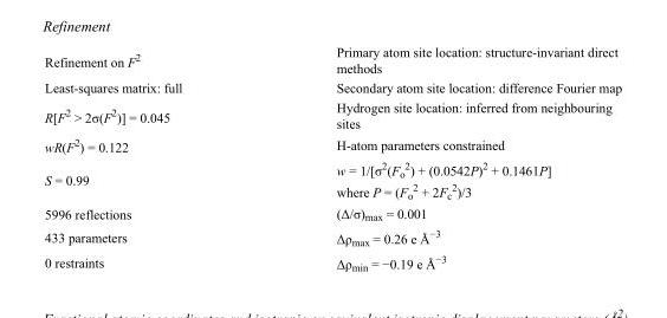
<table><tbody><tr><td>Refinement on F<sup>2</sup></td><td>Primary atom site location: structure-invariant direct methods</td></tr><tr><td>Least-squares matrix: full</td><td>Secondary atom site location: difference Fourier map</td></tr><tr><td>R[F<sup>2</sup> &gt; 2σ(F<sup>2</sup>)] = 0.045</td><td>Hydrogen site location: inferred from neighbouring sites</td></tr><tr><td>wR(F<sup>2</sup>) = 0.122</td><td>H-atom parameters constrained</td></tr><tr><td>S = 0.99</td><td>w = 1/[σ<sup>2</sup>(F<sub>o</sub> <sup>2</sup>) + (0.0542P)<sup>2</sup> + 0.1461P] where P = (F<sub>o</sub> <sup>2</sup> + 2F<sub>c</sub> <sup>2</sup>)/3</td></tr><tr><td>5996 reflections</td><td>(Δ/σ)<sub>max</sub> = 0.001</td></tr><tr><td>433 parameters</td><td>Δρ<sub>max</sub> = 0.26 e Å<sup>−3</sup></td></tr><tr><td>0 restraints</td><td>Δρ<sub>min</sub> = −0.19 e Å<sup>−3</sup></td></tr></tbody></table>